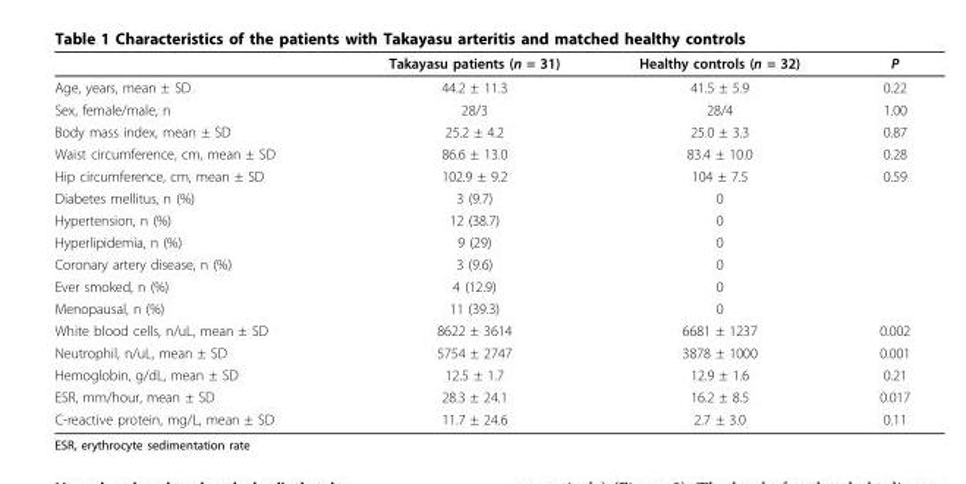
<table><thead><tr><td></td><td>Takayasu patients (n = 31)</td><td>Healthy controls (n = 32)</td><td>P</td></tr></thead><tbody><tr><td>Age, years, mean ± SD</td><td>44.2 ± 11.3</td><td>41.5 ± 5.9</td><td>0.22</td></tr><tr><td>Sex, female/male, n</td><td>28/3</td><td>28/4</td><td>1.00</td></tr><tr><td>Body mass index, mean ± SD</td><td>25.2 ± 4.2</td><td>25.0 ± 3.3</td><td>0.87</td></tr><tr><td>Waist circumference, cm, mean ± SD</td><td>86.6 ± 13.0</td><td>83.4 ± 10.0</td><td>0.28</td></tr><tr><td>Hip circumference, cm, mean ± SD</td><td>102.9 ± 9.2</td><td>104 ± 7.5</td><td>0.59</td></tr><tr><td>Diabetes mellitus, n (%)</td><td>3 (9.7)</td><td>0</td><td></td></tr><tr><td>Hypertension, n (%)</td><td>12 (38.7)</td><td>0</td><td></td></tr><tr><td>Hyperlipidemia, n (%)</td><td>9 (29)</td><td>0</td><td></td></tr><tr><td>Coronary artery disease, n (%)</td><td>3 (9.6)</td><td>0</td><td></td></tr><tr><td>Ever smoked, n (%)</td><td>4 (12.9)</td><td>0</td><td></td></tr><tr><td>Menopausal, n (%)</td><td>11 (39.3)</td><td>0</td><td></td></tr><tr><td>White blood cells, n/uL, mean ± SD</td><td>8622 ± 3614</td><td>6681 ± 1237</td><td>0.002</td></tr><tr><td>Neutrophil, n/uL, mean ± SD</td><td>5754 ± 2747</td><td>3878 ± 1000</td><td>0.001</td></tr><tr><td>Hemoglobin, g/dL, mean ± SD</td><td>12.5 ± 1.7</td><td>12.9 ± 1.6</td><td>0.21</td></tr><tr><td>ESR, mm/hour, mean ± SD</td><td>28.3 ± 24.1</td><td>16.2 ± 8.5</td><td>0.017</td></tr><tr><td>C-reactive protein, mg/L, mean ± SD</td><td>11.7 ± 24.6</td><td>2.7 ± 3.0</td><td>0.11</td></tr></tbody></table>